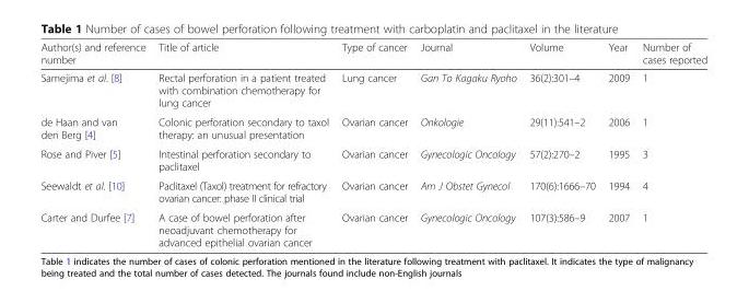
<table><thead><tr><td>Author(s) and reference number</td><td>Title of article</td><td>Type of cancer</td><td>Journal</td><td>Volume</td><td>Year</td><td>Number of cases reported</td></tr></thead><tbody><tr><td>Samejima et al. [8]</td><td>Rectal perforation in a patient treated with combination chemotherapy for lung cancer</td><td>Lung cancer</td><td>Gan To Kagaku Ryoho</td><td>36(2):301–4</td><td>2009</td><td>1</td></tr><tr><td>de Haan and van den Berg [4]</td><td>Colonic perforation secondary to taxol therapy: an unusual presentation</td><td>Ovarian cancer</td><td>Onkologie</td><td>29(11):541–2</td><td>2006</td><td>1</td></tr><tr><td>Rose and Piver [5]</td><td>Intestinal perforation secondary to paclitaxel</td><td>Ovarian cancer</td><td>Gynecologic Oncology</td><td>57(2):270–2</td><td>1995</td><td>3</td></tr><tr><td>Seewaldt et al. [10]</td><td>Paclitaxel (Taxol) treatment for refractory ovarian cancer: phase II clinical trial</td><td>Ovarian cancer</td><td>Am J Obstet Gynecol</td><td>170(6):1666–70</td><td>1994</td><td>4</td></tr><tr><td>Carter and Durfee [7]</td><td>A case of bowel perforation after neoadjuvant chemotherapy for advanced epithelial ovarian cancer</td><td>Ovarian cancer</td><td>Gynecologic Oncology</td><td>107(3):586–9</td><td>2007</td><td>1</td></tr></tbody></table>